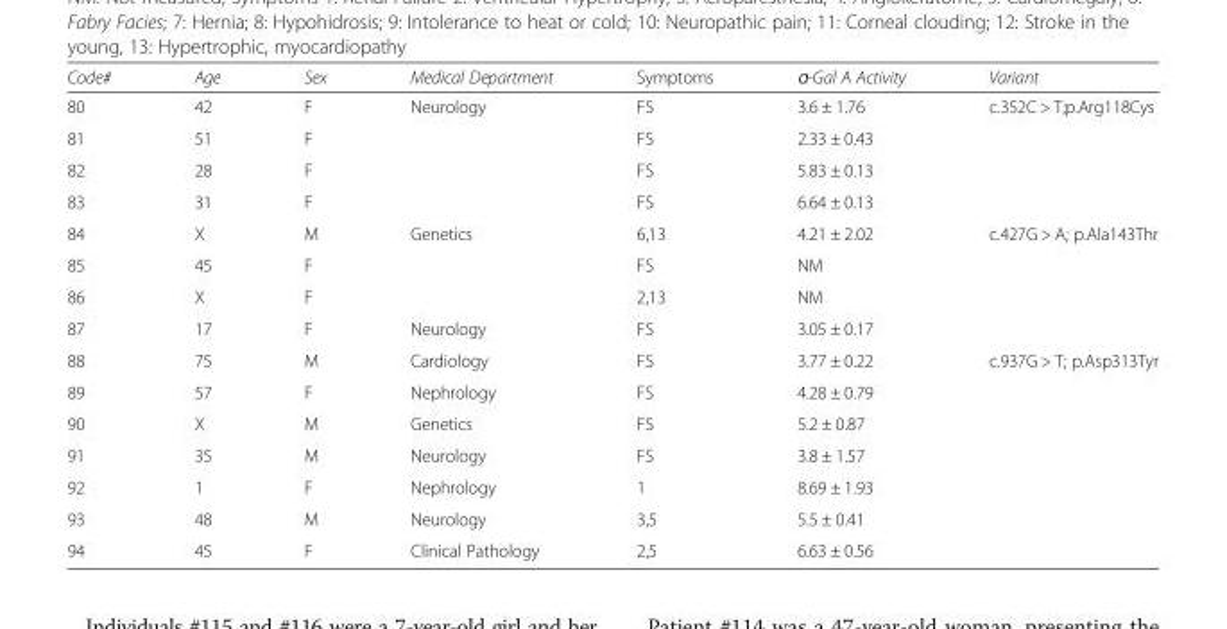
<table><thead><tr><td>Code#</td><td>Age</td><td>Sex</td><td>Medical Department</td><td>Symptoms</td><td>ɑ-Gal A Activity</td><td>Variant</td></tr></thead><tbody><tr><td>80</td><td>42</td><td>F</td><td rowspan="4">Neurology</td><td>FS</td><td>3.6 ± 1.76</td><td rowspan="4">c.352C &gt; T;p.Arg118Cys</td></tr><tr><td>81</td><td>51</td><td>F</td><td>FS</td><td>2.33 ± 0.43</td></tr><tr><td>82</td><td>28</td><td>F</td><td>FS</td><td>5.83 ± 0.13</td></tr><tr><td>83</td><td>31</td><td>F</td><td>FS</td><td>6.64 ± 0.13</td></tr><tr><td>84</td><td>X</td><td>M</td><td rowspan="3">Genetics</td><td>6,13</td><td>4.21 ± 2.02</td><td rowspan="4">c.427G &gt; A; p.Ala143Thr</td></tr><tr><td>85</td><td>45</td><td>F</td><td>FS</td><td>NM</td></tr><tr><td>86</td><td>X</td><td>F</td><td>2,13</td><td>NM</td></tr><tr><td>87</td><td>17</td><td>F</td><td>Neurology</td><td>FS</td><td>3.05 ± 0.17</td></tr><tr><td>88</td><td>75</td><td>M</td><td>Cardiology</td><td>FS</td><td>3.77 ± 0.22</td><td rowspan="7">c.937G &gt; T; p.Asp313Tyr</td></tr><tr><td>89</td><td>57</td><td>F</td><td>Nephrology</td><td>FS</td><td>4.28 ± 0.79</td></tr><tr><td>90</td><td>X</td><td>M</td><td>Genetics</td><td>FS</td><td>5.2 ± 0.87</td></tr><tr><td>91</td><td>35</td><td>M</td><td>Neurology</td><td>FS</td><td>3.8 ± 1.57</td></tr><tr><td>92</td><td>1</td><td>F</td><td>Nephrology</td><td>1</td><td>8.69 ± 1.93</td></tr><tr><td>93</td><td>48</td><td>M</td><td>Neurology</td><td>3,5</td><td>5.5 ± 0.41</td></tr><tr><td>94</td><td>45</td><td>F</td><td>Clinical Pathology</td><td>2,5</td><td>6.63 ± 0.56</td></tr></tbody></table>